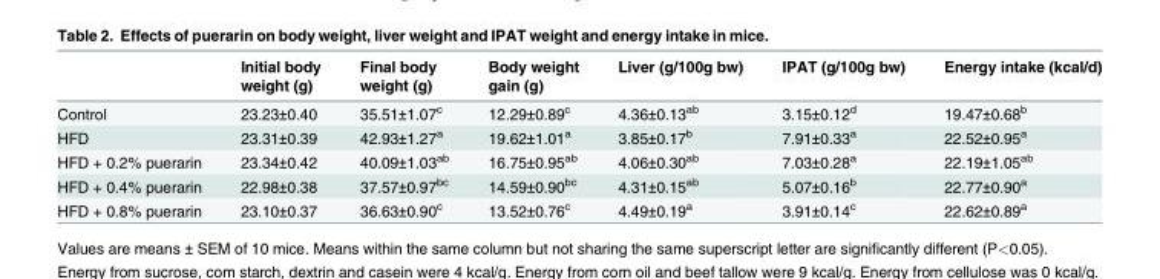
<table><thead><tr><td></td><td>Initial body weight (g)</td><td>Final body weight (g)</td><td>Body weight gain (g)</td><td>Liver (g/100g bw)</td><td>IPAT (g/100g bw)</td><td>Energy intake (kcal/d)</td></tr></thead><tbody><tr><td>Control</td><td>23.23±0.40</td><td>35.51±1.07<sup>c</sup></td><td>12.29±0.89<sup>c</sup></td><td>4.36±0.13<sup>ab</sup></td><td>3.15±0.12<sup>d</sup></td><td>19.47±0.68<sup>b</sup></td></tr><tr><td>HFD</td><td>23.31±0.39</td><td>42.93±1.27<sup>a</sup></td><td>19.62±1.01<sup>a</sup></td><td>3.85±0.17<sup>b</sup></td><td>7.91±0.33<sup>a</sup></td><td>22.52±0.95<sup>a</sup></td></tr><tr><td>HFD + 0.2% puerarin</td><td>23.34±0.42</td><td>40.09±1.03<sup>ab</sup></td><td>16.75±0.95<sup>ab</sup></td><td>4.06±0.30<sup>ab</sup></td><td>7.03±0.28<sup>a</sup></td><td>22.19±1.05<sup>ab</sup></td></tr><tr><td>HFD + 0.4% puerarin</td><td>22.98±0.38</td><td>37.57±0.97<sup>bc</sup></td><td>14.59±0.90<sup>bc</sup></td><td>4.31±0.15<sup>ab</sup></td><td>5.07±0.16<sup>b</sup></td><td>22.77±0.90<sup>a</sup></td></tr><tr><td>HFD + 0.8% puerarin</td><td>23.10±0.37</td><td>36.63±0.90<sup>c</sup></td><td>13.52±0.76<sup>c</sup></td><td>4.49±0.19<sup>a</sup></td><td>3.91±0.14<sup>c</sup></td><td>22.62±0.89<sup>a</sup></td></tr></tbody></table>